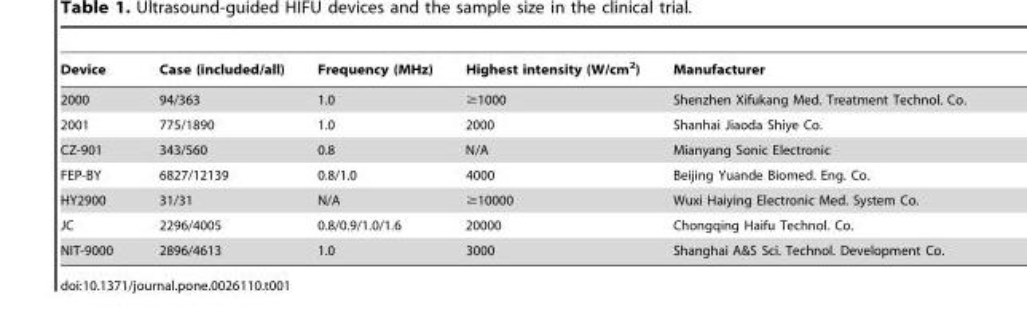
<table><thead><tr><td>Device</td><td>Case (included/all)</td><td>Frequency (MHz)</td><td>Highest intensity (W/cm<sup>2</sup>)</td><td>Manufacturer</td></tr></thead><tbody><tr><td>2000</td><td>94/363</td><td>1.0</td><td>≥1000</td><td>Shenzhen Xifukang Med. Treatment Technol. Co.</td></tr><tr><td>2001</td><td>775/1890</td><td>1.0</td><td>2000</td><td>Shanhai Jiaoda Shiye Co.</td></tr><tr><td>CZ-901</td><td>343/560</td><td>0.8</td><td>N/A</td><td>Mianyang Sonic Electronic</td></tr><tr><td>FEP-BY</td><td>6827/12139</td><td>0.8/1.0</td><td>4000</td><td>Beijing Yuande Biomed. Eng. Co.</td></tr><tr><td>HY2900</td><td>31/31</td><td>N/A</td><td>≥10000</td><td>Wuxi Haiying Electronic Med. System Co.</td></tr><tr><td>JC</td><td>2296/4005</td><td>0.8/0.9/1.0/1.6</td><td>20000</td><td>Chongqing Haifu Technol. Co.</td></tr><tr><td>NIT-9000</td><td>2896/4613</td><td>1.0</td><td>3000</td><td>Shanghai A&amp;S Sci. Technol. Development Co.</td></tr></tbody></table>